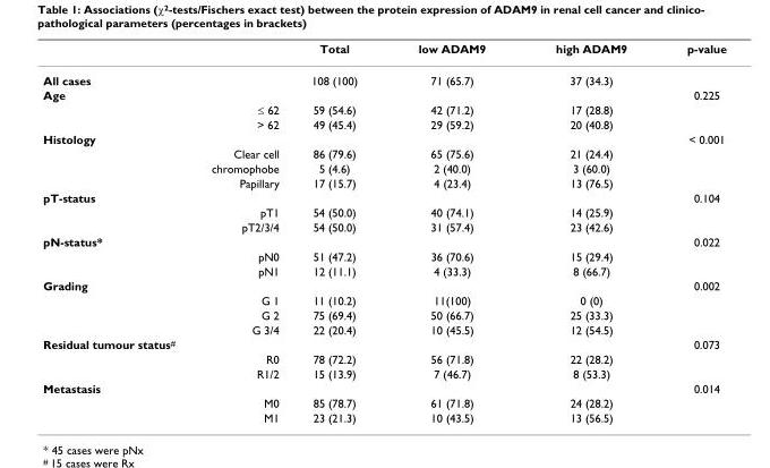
<table><thead><tr><td></td><td>Total</td><td>low ADAM9</td><td>high ADAM9</td><td>p-value</td></tr></thead><tbody><tr><td>All cases</td><td>108 (100)</td><td>71 (65.7)</td><td>37 (34.3)</td><td></td></tr><tr><td>Age</td><td></td><td></td><td></td><td>0.225</td></tr><tr><td>≤ 62</td><td>59 (54.6)</td><td>42 (71.2)</td><td>17 (28.8)</td><td></td></tr><tr><td>&gt; 62</td><td>49 (45.4)</td><td>29 (59.2)</td><td>20 (40.8)</td><td></td></tr><tr><td>Histology</td><td></td><td></td><td></td><td>&lt; 0.001</td></tr><tr><td>Clear cell</td><td>86 (79.6)</td><td>65 (75.6)</td><td>21 (24.4)</td><td></td></tr><tr><td>chromophobe</td><td>5 (4.6)</td><td>2 (40.0)</td><td>3 (60.0)</td><td></td></tr><tr><td>Papillary</td><td>17 (15.7)</td><td>4 (23.4)</td><td>13 (76.5)</td><td></td></tr><tr><td>pT-status</td><td></td><td></td><td></td><td>0.104</td></tr><tr><td>pT1</td><td>54 (50.0)</td><td>40 (74.1)</td><td>14 (25.9)</td><td></td></tr><tr><td>pT2/3/4</td><td>54 (50.0)</td><td>31 (57.4)</td><td>23 (42.6)</td><td></td></tr><tr><td>pN-status*</td><td></td><td></td><td></td><td>0.022</td></tr><tr><td>pN0</td><td>51 (47.2)</td><td>36 (70.6)</td><td>15 (29.4)</td><td></td></tr><tr><td>pN1</td><td>12 (11.1)</td><td>4 (33.3)</td><td>8 (66.7)</td><td></td></tr><tr><td>Grading</td><td></td><td></td><td></td><td>0.002</td></tr><tr><td>G 1</td><td>11 (10.2)</td><td>11(100)</td><td>0 (0)</td><td></td></tr><tr><td>G 2</td><td>75 (69.4)</td><td>50 (66.7)</td><td>25 (33.3)</td><td></td></tr><tr><td>G 3/4</td><td>22 (20.4)</td><td>10 (45.5)</td><td>12 (54.5)</td><td></td></tr><tr><td>Residual tumour status<sup>#</sup></td><td></td><td></td><td></td><td>0.073</td></tr><tr><td>R0</td><td>78 (72.2)</td><td>56 (71.8)</td><td>22 (28.2)</td><td></td></tr><tr><td>R1/2</td><td>15 (13.9)</td><td>7 (46.7)</td><td>8 (53.3)</td><td></td></tr><tr><td>Metastasis</td><td></td><td></td><td></td><td>0.014</td></tr><tr><td>M0</td><td>85 (78.7)</td><td>61 (71.8)</td><td>24 (28.2)</td><td></td></tr><tr><td>M1</td><td>23 (21.3)</td><td>10 (43.5)</td><td>13 (56.5)</td><td></td></tr></tbody></table>